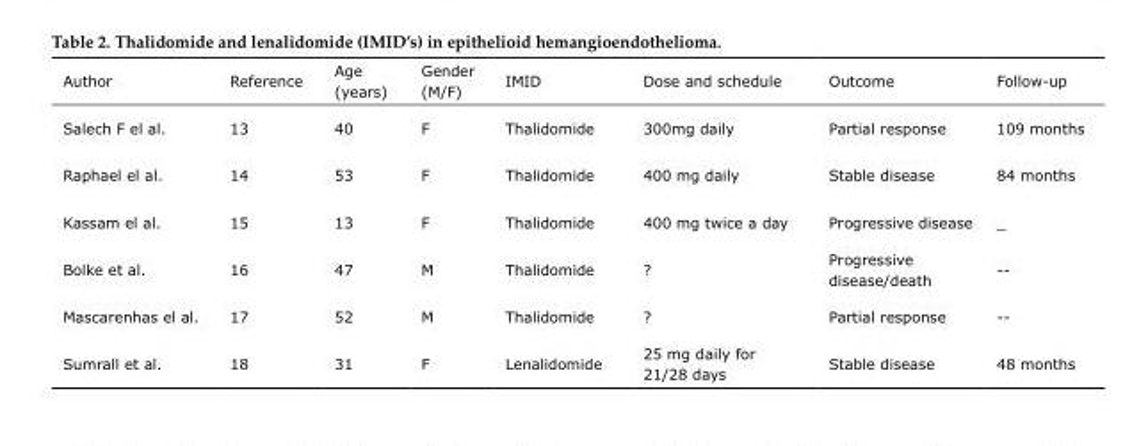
<table><thead><tr><td>Author</td><td>Reference</td><td>Age (years)</td><td>Gender (M/F)</td><td>IMID</td><td>Dose and schedule</td><td>Outcome</td><td>Follow-up</td></tr></thead><tbody><tr><td>Salech F el al.</td><td>13</td><td>40</td><td>F</td><td>Thalidomide</td><td>300mg daily</td><td>Partial response</td><td>109 months</td></tr><tr><td>Raphael el al.</td><td>14</td><td>53</td><td>F</td><td>Thalidomide</td><td>400 mg daily</td><td>Stable disease</td><td>84 months</td></tr><tr><td>Kassam el al.</td><td>15</td><td>13</td><td>F</td><td>Thalidomide</td><td>400 mg twice a day</td><td>Progressive disease</td><td>_</td></tr><tr><td>Bolke et al.</td><td>16</td><td>47</td><td>M</td><td>Thalidomide</td><td>?</td><td>Progressive disease/death</td><td>--</td></tr><tr><td>Mascarenhas el al.</td><td>17</td><td>52</td><td>M</td><td>Thalidomide</td><td>?</td><td>Partial response</td><td>--</td></tr><tr><td>Sumrall et al.</td><td>18</td><td>31</td><td>F</td><td>Lenalidomide</td><td>25 mg daily for 21/28 days</td><td>Stable disease</td><td>48 months</td></tr></tbody></table>